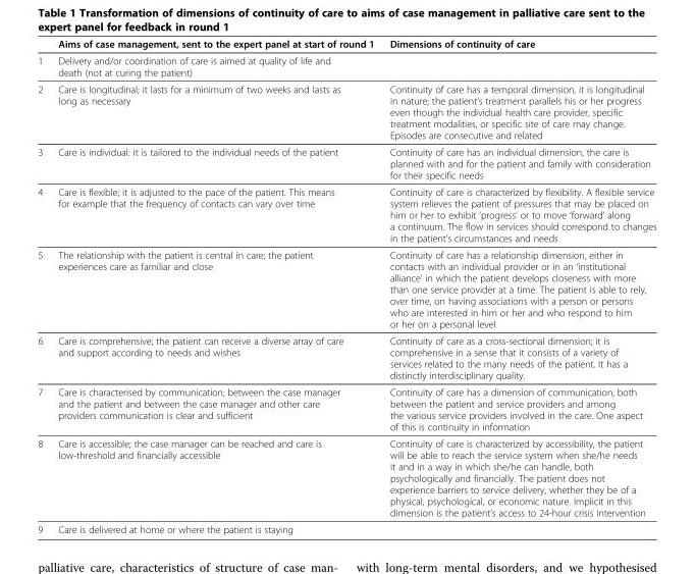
<table><thead><tr><td></td><td>Aims of case management, sent to the expert panel at start of round 1</td><td>Dimensions of continuity of care</td></tr></thead><tbody><tr><td>1</td><td>Delivery and/or coordination of care is aimed at quality of life and death (not at curing the patient)</td><td></td></tr><tr><td>2</td><td>Care is longitudinal; it lasts for a minimum of two weeks and lasts as long as necessary</td><td>Continuity of care has a temporal dimension, it is longitudinal in nature; the patient’s treatment parallels his or her progress even though the individual health care provider, specific treatment modalities, or specific site of care may change. Episodes are consecutive and related</td></tr><tr><td>3</td><td>Care is individual: it is tailored to the individual needs of the patient</td><td>Continuity of care has an individual dimension, the care is planned with and for the patient and family with consideration for their specific needs</td></tr><tr><td>4</td><td>Care is flexible; it is adjusted to the pace of the patient. This means for example that the frequency of contacts can vary over time</td><td>Continuity of care is characterized by flexibility. A flexible service system relieves the patient of pressures that may be placed on him or her to exhibit ‘progress’ or to move ‘forward’ along a continuum. The flow in services should correspond to changes in the patient’s circumstances and needs</td></tr><tr><td>5</td><td>The relationship with the patient is central in care; the patient experiences care as familiar and close</td><td>Continuity of care has a relationship dimension, either in contacts with an individual provider or in an ‘institutional alliance’ in which the patient develops closeness with more than one service provider at a time. The patient is able to rely, over time, on having associations with a person or persons who are interested in him or her and who respond to him or her on a personal level</td></tr><tr><td>6</td><td>Care is comprehensive; the patient can receive a diverse array of care and support according to needs and wishes</td><td>Continuity of care as a cross-sectional dimension; it is comprehensive in a sense that it consists of a variety of services related to the many needs of the patient. It has a distinctly interdisciplinary quality.</td></tr><tr><td>7</td><td>Care is characterised by communication; between the case manager and the patient and between the case manager and other care providers communication is clear and sufficient</td><td>Continuity of care has a dimension of communication, both between the patient and service providers and among the various service providers involved in the care. One aspect of this is continuity in information</td></tr><tr><td>8</td><td>Care is accessible; the case manager can be reached and care is low-threshold and financially accessible</td><td>Continuity of care is characterized by accessibility, the patient will be able to reach the service system when she/he needs it and in a way in which she/he can handle, both psychologically and financially. The patient does not experience barriers to service delivery, whether they be of a physical, psychological, or economic nature. Implicit in this dimension is the patient’s access to 24-hour crisis intervention</td></tr><tr><td>9</td><td>Care is delivered at home or where the patient is staying</td><td></td></tr></tbody></table>